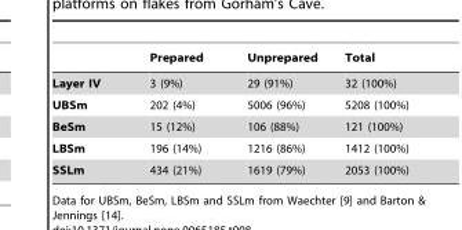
<table><thead><tr><td></td><td>Prepared</td><td>Unprepared</td><td>Total</td></tr></thead><tbody><tr><td>Layer IV</td><td>3 (9%)</td><td>29 (91%)</td><td>32 (100%)</td></tr><tr><td>UBSm</td><td>202 (4%)</td><td>5006 (96%)</td><td>5208 (100%)</td></tr><tr><td>BeSm</td><td>15 (12%)</td><td>106 (88%)</td><td>121 (100%)</td></tr><tr><td>LBSm</td><td>196 (14%)</td><td>1216 (86%)</td><td>1412 (100%)</td></tr><tr><td>SSLm</td><td>434 (21%)</td><td>1619 (79%)</td><td>2053 (100%)</td></tr></tbody></table>